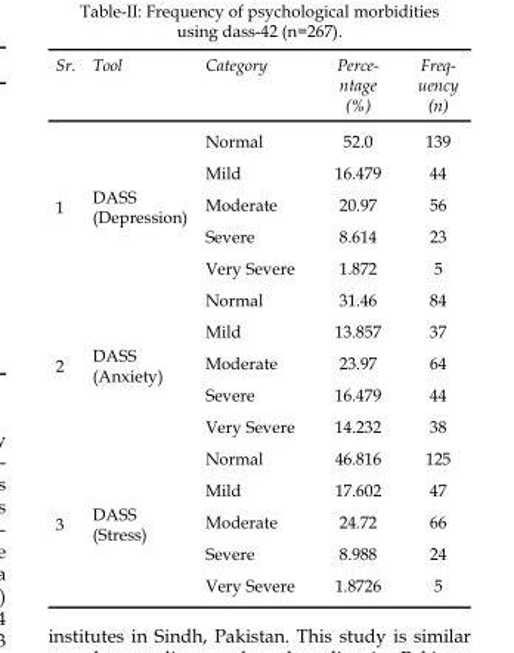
<table><thead><tr><td>Sr.</td><td>Tool</td><td>Category</td><td>Perce- ntage (%)</td><td>Freq- uency (n)</td></tr></thead><tbody><tr><td rowspan="5">1</td><td rowspan="5">DASS (Depression)</td><td>Normal</td><td>52.0</td><td>139</td></tr><tr><td>Mild</td><td>16.479</td><td>44</td></tr><tr><td>Moderate</td><td>20.97</td><td>56</td></tr><tr><td>Severe</td><td>8.614</td><td>23</td></tr><tr><td>Very Severe</td><td>1.872</td><td>5</td></tr><tr><td rowspan="5">2</td><td rowspan="5">DASS (Anxiety)</td><td>Normal</td><td>31.46</td><td>84</td></tr><tr><td>Mild</td><td>13.857</td><td>37</td></tr><tr><td>Moderate</td><td>23.97</td><td>64</td></tr><tr><td>Severe</td><td>16.479</td><td>44</td></tr><tr><td>Very Severe</td><td>14.232</td><td>38</td></tr><tr><td rowspan="5">3</td><td rowspan="5">DASS (Stress)</td><td>Normal</td><td>46.816</td><td>125</td></tr><tr><td>Mild</td><td>17.602</td><td>47</td></tr><tr><td>Moderate</td><td>24.72</td><td>66</td></tr><tr><td>Severe</td><td>8.988</td><td>24</td></tr><tr><td>Very Severe</td><td>1.8726</td><td>5</td></tr></tbody></table>